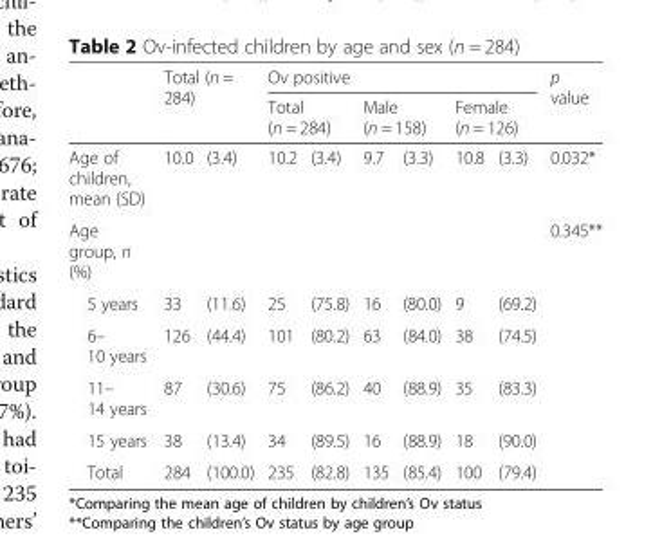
<table><thead><tr><td rowspan="3">Age of children, mean (SD)</td><td rowspan="2" colspan="2">Total (n = 284)</td><td colspan="6">Ov positive</td><td rowspan="3">p value 0.032*</td></tr><tr><td colspan="2">Total (n = 284)</td><td colspan="2">Male (n = 158)</td><td colspan="2">Female (n = 126)</td></tr><tr><td>10.0</td><td>(3.4)</td><td>10.2</td><td>(3.4)</td><td>9.7</td><td>(3.3)</td><td>10.8</td><td>(3.3)</td></tr></thead><tbody><tr><td>Age group, n (%)</td><td></td><td></td><td></td><td></td><td></td><td></td><td></td><td></td><td>0.345**</td></tr><tr><td>5 years</td><td>33</td><td>(11.6)</td><td>25</td><td>(75.8)</td><td>16</td><td>(80.0)</td><td>9</td><td>(69.2)</td><td></td></tr><tr><td>6– 10 years</td><td>126</td><td>(44.4)</td><td>101</td><td>(80.2)</td><td>63</td><td>(84.0)</td><td>38</td><td>(74.5)</td><td></td></tr><tr><td>11– 14 years</td><td>87</td><td>(30.6)</td><td>75</td><td>(86.2)</td><td>40</td><td>(88.9)</td><td>35</td><td>(83.3)</td><td></td></tr><tr><td>15 years</td><td>38</td><td>(13.4)</td><td>34</td><td>(89.5)</td><td>16</td><td>(88.9)</td><td>18</td><td>(90.0)</td><td></td></tr><tr><td>Total</td><td>284</td><td>(100.0)</td><td>235</td><td>(82.8)</td><td>135</td><td>(85.4)</td><td>100</td><td>(79.4)</td><td></td></tr></tbody></table>